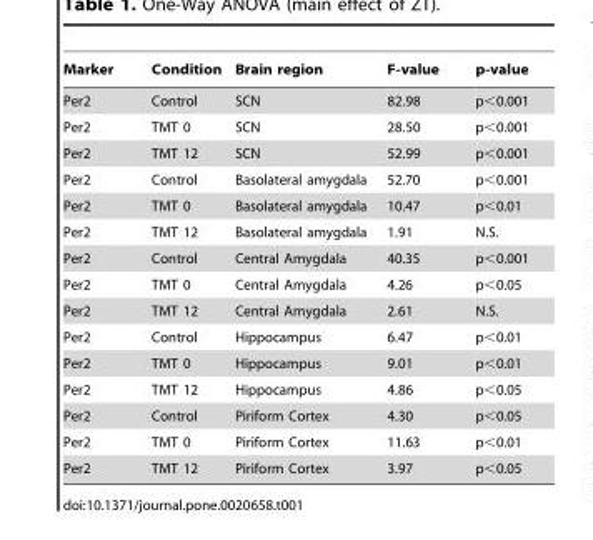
<table><thead><tr><td>Marker</td><td>Condition</td><td>Brain region</td><td>F-value</td><td>p-value</td></tr></thead><tbody><tr><td>Per2</td><td>Control</td><td>SCN</td><td>82.98</td><td>p&lt;0.001</td></tr><tr><td>Per2</td><td>TMT 0</td><td>SCN</td><td>28.50</td><td>p&lt;0.001</td></tr><tr><td>Per2</td><td>TMT 12</td><td>SCN</td><td>52.99</td><td>p&lt;0.001</td></tr><tr><td>Per2</td><td>Control</td><td>Basolateral amygdala</td><td>52.70</td><td>p&lt;0.001</td></tr><tr><td>Per2</td><td>TMT 0</td><td>Basolateral amygdala</td><td>10.47</td><td>p&lt;0.01</td></tr><tr><td>Per2</td><td>TMT 12</td><td>Basolateral amygdala</td><td>1.91</td><td>N.S.</td></tr><tr><td>Per2</td><td>Control</td><td>Central Amygdala</td><td>40.35</td><td>p&lt;0.001</td></tr><tr><td>Per2</td><td>TMT 0</td><td>Central Amygdala</td><td>4.26</td><td>p&lt;0.05</td></tr><tr><td>Per2</td><td>TMT 12</td><td>Central Amygdala</td><td>2.61</td><td>N.S.</td></tr><tr><td>Per2</td><td>Control</td><td>Hippocampus</td><td>6.47</td><td>p&lt;0.01</td></tr><tr><td>Per2</td><td>TMT 0</td><td>Hippocampus</td><td>9.01</td><td>p&lt;0.01</td></tr><tr><td>Per2</td><td>TMT 12</td><td>Hippocampus</td><td>4.86</td><td>p&lt;0.05</td></tr><tr><td>Per2</td><td>Control</td><td>Piriform Cortex</td><td>4.30</td><td>p&lt;0.05</td></tr><tr><td>Per2</td><td>TMT 0</td><td>Piriform Cortex</td><td>11.63</td><td>p&lt;0.01</td></tr><tr><td>Per2</td><td>TMT 12</td><td>Piriform Cortex</td><td>3.97</td><td>p&lt;0.05</td></tr></tbody></table>